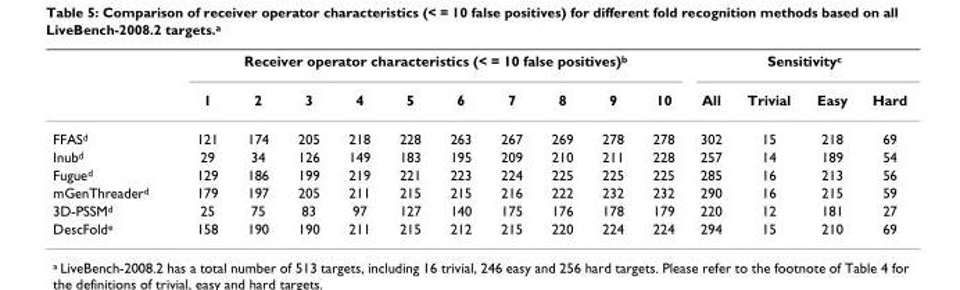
<table><thead><tr><td rowspan="2"></td><td colspan="10">Receiver operator characteristics (&lt; = 10 false positives)<sup>b</sup></td><td colspan="4">Sensitivity<sup>c</sup></td></tr><tr><td>1</td><td>2</td><td>3</td><td>4</td><td>5</td><td>6</td><td>7</td><td>8</td><td>9</td><td>10</td><td>All</td><td>Trivial</td><td>Easy</td><td>Hard</td></tr></thead><tbody><tr><td>FFAS<sup>d</sup></td><td>121</td><td>174</td><td>205</td><td>218</td><td>228</td><td>263</td><td>267</td><td>269</td><td>278</td><td>278</td><td>302</td><td>15</td><td>218</td><td>69</td></tr><tr><td>Inub<sup>d</sup></td><td>29</td><td>34</td><td>126</td><td>149</td><td>183</td><td>195</td><td>209</td><td>210</td><td>211</td><td>228</td><td>257</td><td>14</td><td>189</td><td>54</td></tr><tr><td>Fugue<sup>d</sup></td><td>129</td><td>186</td><td>199</td><td>219</td><td>221</td><td>223</td><td>224</td><td>225</td><td>225</td><td>225</td><td>285</td><td>16</td><td>213</td><td>56</td></tr><tr><td>mGenThreader<sup>d</sup></td><td>179</td><td>197</td><td>205</td><td>211</td><td>215</td><td>215</td><td>216</td><td>222</td><td>232</td><td>232</td><td>290</td><td>16</td><td>215</td><td>59</td></tr><tr><td>3D-PSSM<sup>d</sup></td><td>25</td><td>75</td><td>83</td><td>97</td><td>127</td><td>140</td><td>175</td><td>176</td><td>178</td><td>179</td><td>220</td><td>12</td><td>181</td><td>27</td></tr><tr><td>DescFold<sup>e</sup></td><td>158</td><td>190</td><td>190</td><td>211</td><td>215</td><td>212</td><td>215</td><td>220</td><td>224</td><td>224</td><td>294</td><td>15</td><td>210</td><td>69</td></tr></tbody></table>